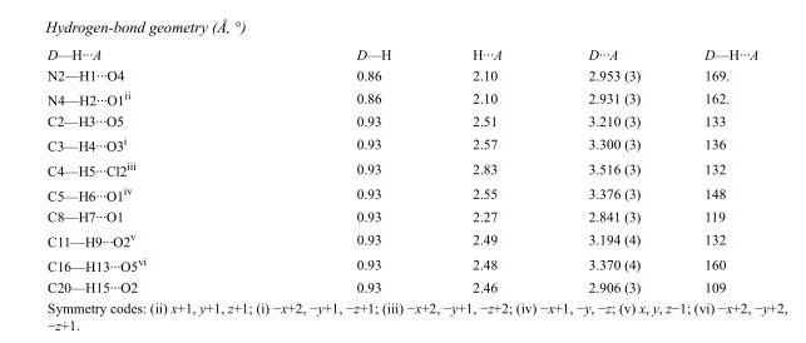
<table><tbody><tr><td>D—H···A</td><td>D—H</td><td>H···A</td><td>D···A</td><td>D—H···A</td></tr><tr><td>N2—H1···O4</td><td>0.86</td><td>2.10</td><td>2.953 (3)</td><td>169.</td></tr><tr><td>N4—H2···O1<sup>ii</sup></td><td>0.86</td><td>2.10</td><td>2.931 (3)</td><td>162.</td></tr><tr><td>C2—H3···O5</td><td>0.93</td><td>2.51</td><td>3.210 (3)</td><td>133</td></tr><tr><td>C3—H4···O3<sup>i</sup></td><td>0.93</td><td>2.57</td><td>3.300 (3)</td><td>136</td></tr><tr><td>C4—H5···Cl2<sup>iii</sup></td><td>0.93</td><td>2.83</td><td>3.516 (3)</td><td>132</td></tr><tr><td>C5—H6···O1<sup>iv</sup></td><td>0.93</td><td>2.55</td><td>3.376 (3)</td><td>148</td></tr><tr><td>C8—H7···O1</td><td>0.93</td><td>2.27</td><td>2.841 (3)</td><td>119</td></tr><tr><td>C11—H9···O2<sup>v</sup></td><td>0.93</td><td>2.49</td><td>3.194 (4)</td><td>132</td></tr><tr><td>C16—H13···O5<sup>vi</sup></td><td>0.93</td><td>2.48</td><td>3.370 (4)</td><td>160</td></tr><tr><td>C20—H15···O2</td><td>0.93</td><td>2.46</td><td>2.906 (3)</td><td>109</td></tr></tbody></table>